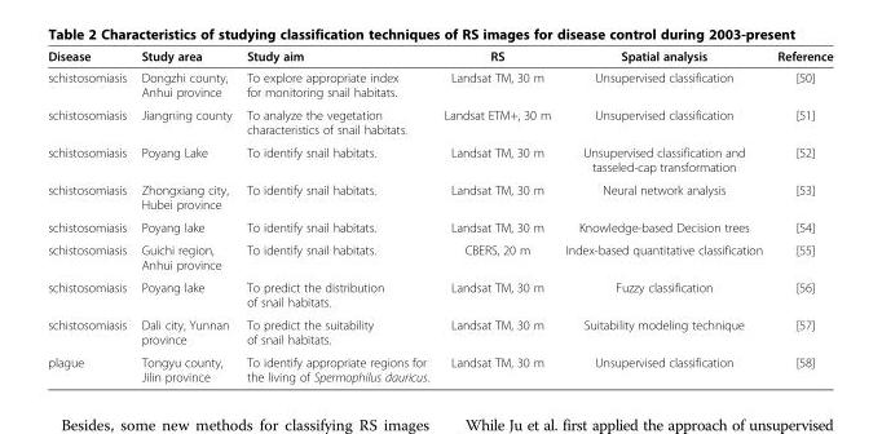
<table><thead><tr><td>Disease</td><td>Study area</td><td>Study aim</td><td>RS</td><td>Spatial analysis</td><td>Reference</td></tr></thead><tbody><tr><td>schistosomiasis</td><td>Dongzhi county, Anhui province</td><td>To explore appropriate index for monitoring snail habitats.</td><td>Landsat TM, 30 m</td><td>Unsupervised classification</td><td>[50]</td></tr><tr><td>schistosomiasis</td><td>Jiangning county</td><td>To analyze the vegetation characteristics of snail habitats.</td><td>Landsat ETM+, 30 m</td><td>Unsupervised classification</td><td>[51]</td></tr><tr><td>schistosomiasis</td><td>Poyang Lake</td><td>To identify snail habitats.</td><td>Landsat TM, 30 m</td><td>Unsupervised classification and tasseled-cap transformation</td><td>[52]</td></tr><tr><td>schistosomiasis</td><td>Zhongxiang city, Hubei province</td><td>To identify snail habitats.</td><td>Landsat TM, 30 m</td><td>Neural network analysis</td><td>[53]</td></tr><tr><td>schistosomiasis</td><td>Poyang lake</td><td>To identify snail habitats.</td><td>Landsat TM, 30 m</td><td>Knowledge-based Decision trees</td><td>[54]</td></tr><tr><td>schistosomiasis</td><td>Guichi region, Anhui province</td><td>To identify snail habitats.</td><td>CBERS, 20 m</td><td>Index-based quantitative classification</td><td>[55]</td></tr><tr><td>schistosomiasis</td><td>Poyang lake</td><td>To predict the distribution of snail habitats.</td><td>Landsat TM, 30 m</td><td>Fuzzy classification</td><td>[56]</td></tr><tr><td>schistosomiasis</td><td>Dali city, Yunnan province</td><td>To predict the suitability of snail habitats.</td><td>Landsat TM, 30 m</td><td>Suitability modeling technique</td><td>[57]</td></tr><tr><td>plague</td><td>Tongyu county, Jilin province</td><td>To identify appropriate regions for the living of Spermophilus dauricus.</td><td>Landsat TM, 30 m</td><td>Unsupervised classification</td><td>[58]</td></tr></tbody></table>